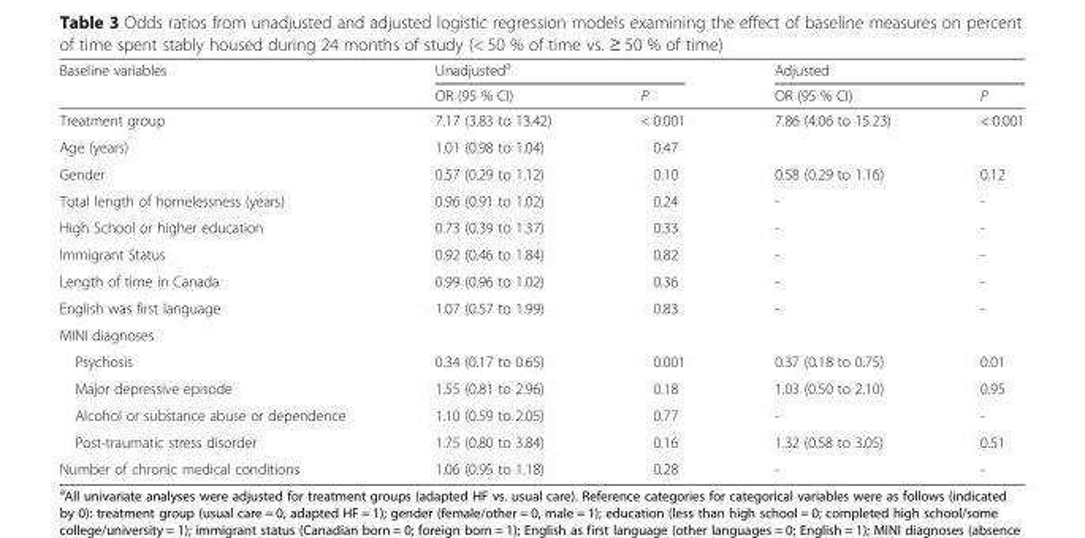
<table><thead><tr><td rowspan="2">Baseline variables</td><td colspan="2">Unadjusted<sup>a</sup></td><td colspan="2">Adjusted</td></tr><tr><td>OR (95 % CI)</td><td>P</td><td>OR (95 % CI)</td><td>P</td></tr></thead><tbody><tr><td>Treatment group</td><td>7.17 (3.83 to 13.42)</td><td>&lt; 0.001</td><td>7.86 (4.06 to 15.23)</td><td>&lt; 0.001</td></tr><tr><td>Age (years)</td><td>1.01 (0.98 to 1.04)</td><td>0.47</td><td></td><td></td></tr><tr><td>Gender</td><td>0.57 (0.29 to 1.12)</td><td>0.10</td><td>0.58 (0.29 to 1.16)</td><td>0.12</td></tr><tr><td>Total length of homelessness (years)</td><td>0.96 (0.91 to 1.02)</td><td>0.24</td><td>-</td><td>-</td></tr><tr><td>High School or higher education</td><td>0.73 (0.39 to 1.37)</td><td>0.33</td><td>-</td><td>-</td></tr><tr><td>Immigrant Status</td><td>0.92 (0.46 to 1.84)</td><td>0.82</td><td>-</td><td>-</td></tr><tr><td>Length of time in Canada</td><td>0.99 (0.96 to 1.02)</td><td>0.36</td><td>-</td><td>-</td></tr><tr><td>English was first language</td><td>1.07 (0.57 to 1.99)</td><td>0.83</td><td>-</td><td>-</td></tr><tr><td colspan="5">MINI diagnoses</td></tr><tr><td>Psychosis</td><td>0.34 (0.17 to 0.65)</td><td>0.001</td><td>0.37 (0.18 to 0.75)</td><td>0.01</td></tr><tr><td>Major depressive episode</td><td>1.55 (0.81 to 2.96)</td><td>0.18</td><td>1.03 (0.50 to 2.10)</td><td>0.95</td></tr><tr><td>Alcohol or substance abuse or dependence</td><td>1.10 (0.59 to 2.05)</td><td>0.77</td><td>-</td><td>-</td></tr><tr><td>Post-traumatic stress disorder</td><td>1.75 (0.80 to 3.84)</td><td>0.16</td><td>1.32 (0.58 to 3.05)</td><td>0.51</td></tr><tr><td>Number of chronic medical conditions</td><td>1.06 (0.95 to 1.18)</td><td>0.28</td><td>-</td><td>-</td></tr></tbody></table>